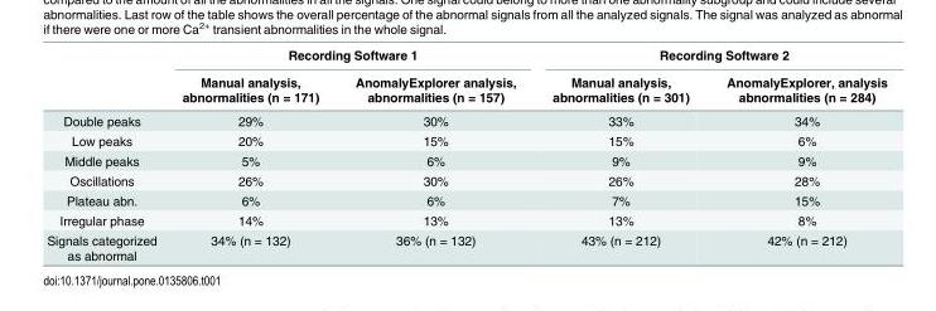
<table><thead><tr><td rowspan="2"></td><td colspan="2">Recording Software 1</td><td colspan="2">Recording Software 2</td></tr><tr><td>Manual analysis, abnormalities (n = 171)</td><td>AnomalyExplorer analysis, abnormalities (n = 157)</td><td>Manual analysis, abnormalities (n = 301)</td><td>AnomalyExplorer, analysis abnormalities (n = 284)</td></tr></thead><tbody><tr><td>Double peaks</td><td>29%</td><td>30%</td><td>33%</td><td>34%</td></tr><tr><td>Low peaks</td><td>20%</td><td>15%</td><td>15%</td><td>6%</td></tr><tr><td>Middle peaks</td><td>5%</td><td>6%</td><td>9%</td><td>9%</td></tr><tr><td>Oscillations</td><td>26%</td><td>30%</td><td>26%</td><td>28%</td></tr><tr><td>Plateau abn.</td><td>6%</td><td>6%</td><td>7%</td><td>15%</td></tr><tr><td>Irregular phase</td><td>14%</td><td>13%</td><td>13%</td><td>8%</td></tr><tr><td>Signals categorized as abnormal</td><td>34% (n = 132)</td><td>36% (n = 132)</td><td>43% (n = 212)</td><td>42% (n = 212)</td></tr></tbody></table>